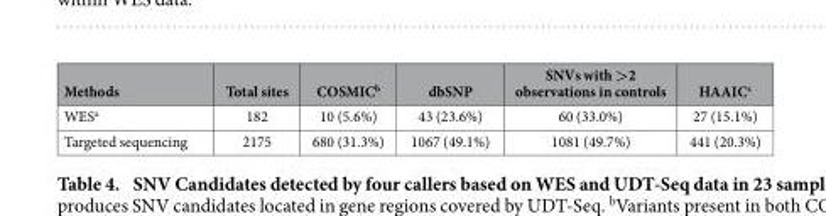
<table><thead><tr><td>Methods</td><td>Total sites</td><td>COSMIC<sup>b</sup></td><td>dbSNP</td><td>SNVs with &gt;2 observations in controls</td><td>HAAIC<sup>c</sup></td></tr></thead><tbody><tr><td>WES<sup>a</sup></td><td>182</td><td>10 (5.6%)</td><td>43 (23.6%)</td><td>60 (33.0%)</td><td>27 (15.1%)</td></tr><tr><td>Targeted sequencing</td><td>2175</td><td>680 (31.3%)</td><td>1067 (49.1%)</td><td>1081 (49.7%)</td><td>441 (20.3%)</td></tr></tbody></table>